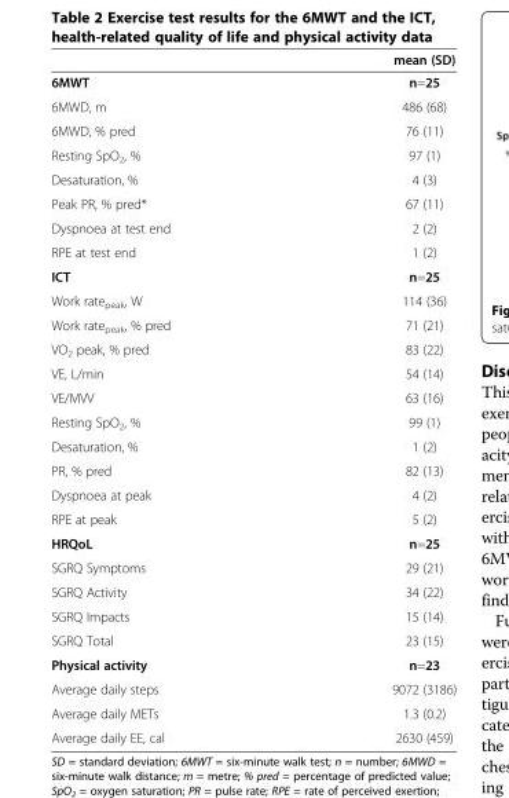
<table><thead><tr><td></td><td>mean (SD)</td></tr></thead><tbody><tr><td>6MWT</td><td>n=25</td></tr><tr><td>6MWD, m</td><td>486 (68)</td></tr><tr><td>6MWD, % pred</td><td>76 (11)</td></tr><tr><td>Resting SpO<sub>2</sub>, %</td><td>97 (1)</td></tr><tr><td>Desaturation, %</td><td>4 (3)</td></tr><tr><td>Peak PR, % pred*</td><td>67 (11)</td></tr><tr><td>Dyspnoea at test end</td><td>2 (2)</td></tr><tr><td>RPE at test end</td><td>1 (2)</td></tr><tr><td>ICT</td><td>n=25</td></tr><tr><td>Work rate<sub>peak</sub>, W</td><td>114 (36)</td></tr><tr><td>Work rate<sub>peak</sub>, % pred</td><td>71 (21)</td></tr><tr><td>VO<sub>2</sub> peak, % pred</td><td>83 (22)</td></tr><tr><td>VE, L/min</td><td>54 (14)</td></tr><tr><td>VE/MVV</td><td>63 (16)</td></tr><tr><td>Resting SpO<sub>2</sub>, %</td><td>99 (1)</td></tr><tr><td>Desaturation, %</td><td>1 (2)</td></tr><tr><td>PR, % pred</td><td>82 (13)</td></tr><tr><td>Dyspnoea at peak</td><td>4 (2)</td></tr><tr><td>RPE at peak</td><td>5 (2)</td></tr><tr><td>HRQoL</td><td>n=25</td></tr><tr><td>SGRQ Symptoms</td><td>29 (21)</td></tr><tr><td>SGRQ Activity</td><td>34 (22)</td></tr><tr><td>SGRQ Impacts</td><td>15 (14)</td></tr><tr><td>SGRQ Total</td><td>23 (15)</td></tr><tr><td>Physical activity</td><td>n=23</td></tr><tr><td>Average daily steps</td><td>9072 (3186)</td></tr><tr><td>Average daily METs</td><td>1.3 (0.2)</td></tr><tr><td>Average daily EE, cal</td><td>2630 (459)</td></tr></tbody></table>